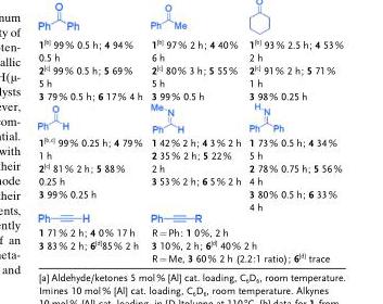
<table><tbody><tr><td>1<sup>[b]</sup> 99% 0.5 h; 4 94% 0.5 h 2<sup>[c]</sup> 99% 0.5 h; 5 69% 5 h 3 79% 0.5 h; 6 17% 4 h</td><td>1<sup>[b]</sup> 97% 2 h; 4 40% 6 h 2<sup>[c]</sup> 80% 3 h; 5 55% 5 h 3 99% 0.5 h</td><td>1<sup>[b]</sup> 93% 2.5 h; 4 53% 2 h 2<sup>[c]</sup> 91% 2 h; 5 71% 1 h 3 98% 0.25 h</td></tr><tr><td>1<sup>[b,c]</sup> 99% 0.25 h; 4 79% 1 h 2<sup>[c]</sup> 81% 2 h; 5 88% 0.25 h 3 99% 0.25 h</td><td>1 42% 2 h; 4 3% 2 h 2 35% 2 h; 5 22% 2 h 3 53% 2 h; 6 5% 2 h</td><td>1 73% 0.5 h; 4 34% 5 h 2 78% 0.75 h; 5 56% 4 h 3 80% 0.5 h; 6 33% 4 h</td></tr><tr><td>1 71% 2 h; 4 0% 17 h 3 83% 2 h; 6<sup>[d]</sup>85% 2 h</td><td colspan="2">R=Ph: 1 0%, 2 h 3 10%, 2 h; 6<sup>[d]</sup> 40% 2 h R=Me, 3 60% 2 h (2.2:1 ratio); 6<sup>[d]</sup> trace</td></tr></tbody></table>